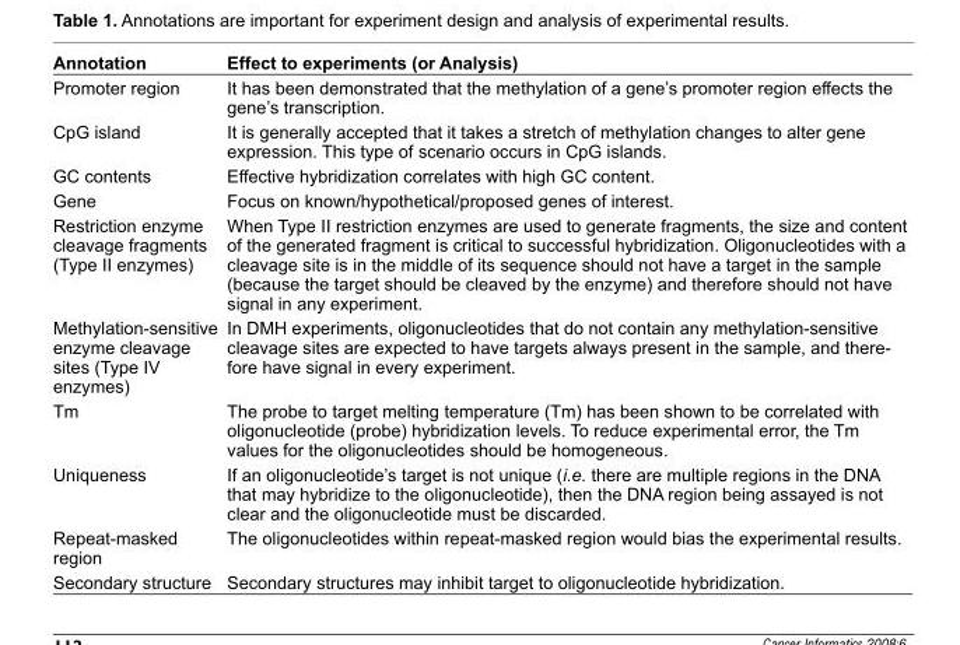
<table><thead><tr><td>Annotation</td><td>Effect to experiments (or Analysis)</td></tr></thead><tbody><tr><td>Promoter region</td><td>It has been demonstrated that the methylation of a gene’s promoter region effects the gene’s transcription.</td></tr><tr><td>CpG island</td><td>It is generally accepted that it takes a stretch of methylation changes to alter gene expression. This type of scenario occurs in CpG islands.</td></tr><tr><td>GC contents</td><td>Effective hybridization correlates with high GC content.</td></tr><tr><td>Gene</td><td>Focus on known/hypothetical/proposed genes of interest.</td></tr><tr><td>Restriction enzyme cleavage fragments (Type II enzymes)</td><td>When Type II restriction enzymes are used to generate fragments, the size and content of the generated fragment is critical to successful hybridization. Oligonucleotides with a cleavage site is in the middle of its sequence should not have a target in the sample (because the target should be cleaved by the enzyme) and therefore should not have signal in any experiment.</td></tr><tr><td>Methylation-sensitive enzyme cleavage sites (Type IV enzymes)</td><td>In DMH experiments, oligonucleotides that do not contain any methylation-sensitive cleavage sites are expected to have targets always present in the sample, and there- fore have signal in every experiment.</td></tr><tr><td>Tm</td><td>The probe to target melting temperature (Tm) has been shown to be correlated with oligonucleotide (probe) hybridization levels. To reduce experimental error, the Tm values for the oligonucleotides should be homogeneous.</td></tr><tr><td>Uniqueness</td><td>If an oligonucleotide’s target is not unique (i.e. there are multiple regions in the DNA that may hybridize to the oligonucleotide), then the DNA region being assayed is not clear and the oligonucleotide must be discarded.</td></tr><tr><td>Repeat-masked region</td><td>The oligonucleotides within repeat-masked region would bias the experimental results.</td></tr><tr><td>Secondary structure</td><td>Secondary structures may inhibit target to oligonucleotide hybridization.</td></tr></tbody></table>